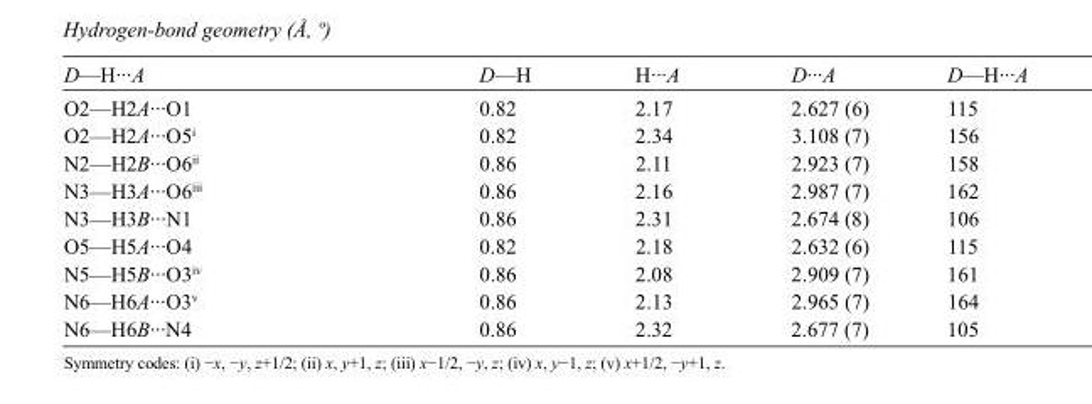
<table><tbody><tr><td>D—H···A</td><td>D—H</td><td>H···A</td><td>D···A</td><td>D—H···A</td></tr><tr><td>O2—H2A···O1</td><td>0.82</td><td>2.17</td><td>2.627 (6)</td><td>115</td></tr><tr><td>O2—H2A···O5<sup>i</sup></td><td>0.82</td><td>2.34</td><td>3.108 (7)</td><td>156</td></tr><tr><td>N2—H2B···O6<sup>ii</sup></td><td>0.86</td><td>2.11</td><td>2.923 (7)</td><td>158</td></tr><tr><td>N3—H3A···O6<sup>iii</sup></td><td>0.86</td><td>2.16</td><td>2.987 (7)</td><td>162</td></tr><tr><td>N3—H3B···N1</td><td>0.86</td><td>2.31</td><td>2.674 (8)</td><td>106</td></tr><tr><td>O5—H5A···O4</td><td>0.82</td><td>2.18</td><td>2.632 (6)</td><td>115</td></tr><tr><td>N5—H5B···O3<sup>iv</sup></td><td>0.86</td><td>2.08</td><td>2.909 (7)</td><td>161</td></tr><tr><td>N6—H6A···O3<sup>v</sup></td><td>0.86</td><td>2.13</td><td>2.965 (7)</td><td>164</td></tr><tr><td>N6—H6B···N4</td><td>0.86</td><td>2.32</td><td>2.677 (7)</td><td>105</td></tr></tbody></table>